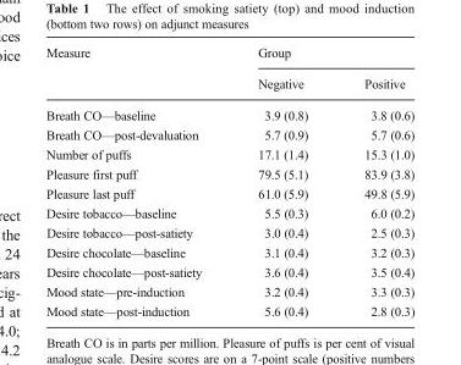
<table><thead><tr><td rowspan="2">Measure</td><td colspan="2">Group</td></tr><tr><td>Negative</td><td>Positive</td></tr></thead><tbody><tr><td>Breath CO—baseline</td><td>3.9 (0.8)</td><td>3.8 (0.6)</td></tr><tr><td>Breath CO—post-devaluation</td><td>5.7 (0.9)</td><td>5.7 (0.6)</td></tr><tr><td>Number of puffs</td><td>17.1 (1.4)</td><td>15.3 (1.0)</td></tr><tr><td>Pleasure first puff</td><td>79.5 (5.1)</td><td>83.9 (3.8)</td></tr><tr><td>Pleasure last puff</td><td>61.0 (5.9)</td><td>49.8 (5.9)</td></tr><tr><td>Desire tobacco—baseline</td><td>5.5 (0.3)</td><td>6.0 (0.2)</td></tr><tr><td>Desire tobacco—post-satiety</td><td>3.0 (0.4)</td><td>2.5 (0.3)</td></tr><tr><td>Desire chocolate—baseline</td><td>3.1 (0.4)</td><td>3.2 (0.3)</td></tr><tr><td>Desire chocolate—post-satiety</td><td>3.6 (0.4)</td><td>3.5 (0.4)</td></tr><tr><td>Mood state—pre-induction</td><td>3.2 (0.4)</td><td>3.3 (0.3)</td></tr><tr><td>Mood state—post-induction</td><td>5.6 (0.4)</td><td>2.8 (0.3)</td></tr></tbody></table>